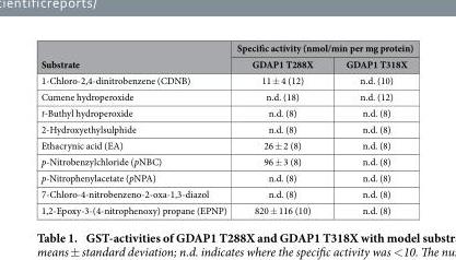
<table><thead><tr><td rowspan="2">Substrate</td><td colspan="2">Specific activity (nmol/min per mg protein)</td></tr><tr><td>GDAP1 T288X</td><td>GDAP1 T318X</td></tr></thead><tbody><tr><td>1-Chloro-2,4-dinitrobenzene (CDNB)</td><td>11 ± 4 (12)</td><td>n.d. (10)</td></tr><tr><td>Cumene hydroperoxide</td><td>n.d. (18)</td><td>n.d. (12)</td></tr><tr><td>t-Buthyl hydroperoxide</td><td>n.d. (8)</td><td>n.d. (8)</td></tr><tr><td>2-Hydroxyethylsulphide</td><td>n.d. (8)</td><td>n.d. (8)</td></tr><tr><td>Ethacrynic acid (EA)</td><td>26 ± 2 (8)</td><td>n.d. (8)</td></tr><tr><td>p-Nitrobenzylchloride (pNBC)</td><td>96 ± 3 (8)</td><td>n.d. (8)</td></tr><tr><td>p-Nitrophenylacetate (pNPA)</td><td>n.d. (8)</td><td>n.d. (8)</td></tr><tr><td>7-Chloro-4-nitrobenzeno-2-oxa-1,3-diazol</td><td>n.d. (8)</td><td>n.d. (8)</td></tr><tr><td>1,2-Epoxy-3-(4-nitrophenoxy) propane (EPNP)</td><td>820 ± 116 (10)</td><td>n.d. (8)</td></tr></tbody></table>